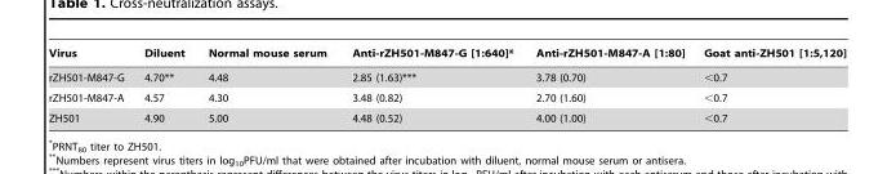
<table><thead><tr><td>Virus</td><td>Diluent</td><td>Normal mouse serum</td><td>Anti-rZH501-M847-G [1:640]*</td><td>Anti-rZH501-M847-A [1:80]</td><td>Goat anti-ZH501 [1:5,120]</td></tr></thead><tbody><tr><td>rZH501-M847-G</td><td>4.70**</td><td>4.48</td><td>2.85 (1.63)***</td><td>3.78 (0.70)</td><td>&lt;0.7</td></tr><tr><td>rZH501-M847-A</td><td>4.57</td><td>4.30</td><td>3.48 (0.82)</td><td>2.70 (1.60)</td><td>&lt;0.7</td></tr><tr><td>ZH501</td><td>4.90</td><td>5.00</td><td>4.48 (0.52)</td><td>4.00 (1.00)</td><td>&lt;0.7</td></tr></tbody></table>